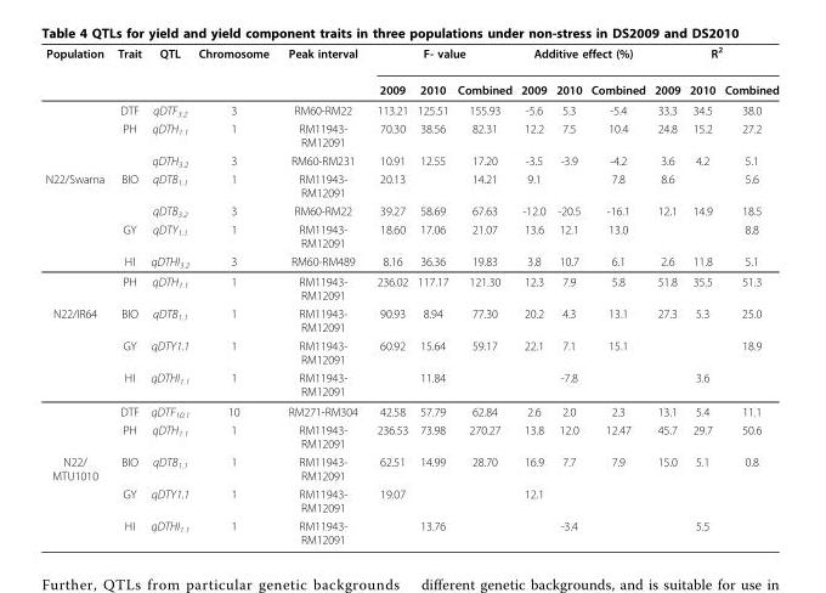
<table><thead><tr><td rowspan="2">Population</td><td rowspan="2">Trait</td><td rowspan="2">QTL</td><td rowspan="2">Chromosome</td><td rowspan="2">Peak interval</td><td colspan="3">F- value</td><td colspan="3">Additive effect (%)</td><td colspan="3">R<sup>2</sup></td></tr><tr><td>2009</td><td>2010</td><td>Combined</td><td>2009</td><td>2010</td><td>Combined</td><td>2009</td><td>2010</td><td>Combined</td></tr></thead><tbody><tr><td></td><td>DTF</td><td>qDTF<sub>3.2</sub></td><td>3</td><td>RM60-RM22</td><td>113.21</td><td>125.51</td><td>155.93</td><td>-5.6</td><td>5.3</td><td>-5.4</td><td>33.3</td><td>34.5</td><td>38.0</td></tr><tr><td></td><td>PH</td><td>qDTH<sub>1.1</sub></td><td>1</td><td>RM11943- RM12091</td><td>70.30</td><td>38.56</td><td>82.31</td><td>12.2</td><td>7.5</td><td>10.4</td><td>24.8</td><td>15.2</td><td>27.2</td></tr><tr><td></td><td></td><td>qDTH<sub>3.2</sub></td><td>3</td><td>RM60-RM231</td><td>10.91</td><td>12.55</td><td>17.20</td><td>-3.5</td><td>-3.9</td><td>-4.2</td><td>3.6</td><td>4.2</td><td>5.1</td></tr><tr><td rowspan="5">N22/Swarna</td><td>BIO</td><td>qDTB<sub>1.1</sub></td><td>1</td><td>RM11943- RM12091</td><td>20.13</td><td></td><td>14.21</td><td>9.1</td><td></td><td>7.8</td><td>8.6</td><td></td><td>5.6</td></tr><tr><td></td><td>qDTB<sub>3.2</sub></td><td>3</td><td>RM60-RM22</td><td>39.27</td><td>58.69</td><td>67.63</td><td>-12.0</td><td>-20.5</td><td>-16.1</td><td>12.1</td><td>14.9</td><td>18.5</td></tr><tr><td>GY</td><td>qDTY<sub>1.1</sub></td><td>1</td><td>RM11943- RM12091</td><td>18.60</td><td>17.06</td><td>21.07</td><td>13.6</td><td>12.1</td><td>13.0</td><td></td><td></td><td>8.8</td></tr><tr><td>HI</td><td>qDTHI<sub>3.2</sub></td><td>3</td><td>RM60-RM489</td><td>8.16</td><td>36.36</td><td>19.83</td><td>3.8</td><td>10.7</td><td>6.1</td><td>2.6</td><td>11.8</td><td>5.1</td></tr><tr><td>PH</td><td>qDTH<sub>1.1</sub></td><td>1</td><td>RM11943- RM12091</td><td>236.02</td><td>117.17</td><td>121.30</td><td>12.3</td><td>7.9</td><td>5.8</td><td>51.8</td><td>35.5</td><td>51.3</td></tr><tr><td rowspan="5">N22/IR64</td><td>BIO</td><td>qDTB<sub>1.1</sub></td><td>1</td><td>RM11943- RM12091</td><td>90.93</td><td>8.94</td><td>77.30</td><td>20.2</td><td>4.3</td><td>13.1</td><td>27.3</td><td>5.3</td><td>25.0</td></tr><tr><td>GY</td><td>qDTY1.1</td><td>1</td><td>RM11943- RM12091</td><td>60.92</td><td>15.64</td><td>59.17</td><td>22.1</td><td>7.1</td><td>15.1</td><td></td><td></td><td>18.9</td></tr><tr><td>HI</td><td>qDTHI<sub>1.1</sub></td><td>1</td><td>RM11943- RM12091</td><td></td><td>11.84</td><td></td><td></td><td>-7.8</td><td></td><td></td><td>3.6</td><td></td></tr><tr><td>DTF</td><td>qDTF<sub>10.1</sub></td><td>10</td><td>RM271-RM304</td><td>42.58</td><td>57.79</td><td>62.84</td><td>2.6</td><td>2.0</td><td>2.3</td><td>13.1</td><td>5.4</td><td>11.1</td></tr><tr><td>PH</td><td>qDTH<sub>1.1</sub></td><td>1</td><td>RM11943- RM12091</td><td>236.53</td><td>73.98</td><td>270.27</td><td>13.8</td><td>12.0</td><td>12.47</td><td>45.7</td><td>29.7</td><td>50.6</td></tr><tr><td rowspan="3">N22/ MTU1010</td><td>BIO</td><td>qDTB<sub>1.1</sub></td><td>1</td><td>RM11943- RM12091</td><td>62.51</td><td>14.99</td><td>28.70</td><td>16.9</td><td>7.7</td><td>7.9</td><td>15.0</td><td>5.1</td><td>0.8</td></tr><tr><td>GY</td><td>qDTY1.1</td><td>1</td><td>RM11943- RM12091</td><td>19.07</td><td></td><td></td><td>12.1</td><td></td><td></td><td></td><td></td><td></td></tr><tr><td>HI</td><td>qDTHI<sub>1.1</sub></td><td>1</td><td>RM11943- RM12091</td><td></td><td>13.76</td><td></td><td></td><td>-3.4</td><td></td><td></td><td>5.5</td><td></td></tr></tbody></table>